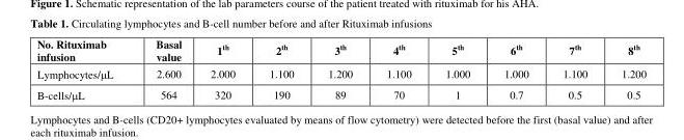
<table><thead><tr><td>No. Rituximab infusion</td><td>Basal value</td><td>1<sup>th</sup></td><td>2<sup>th</sup></td><td>3<sup>th</sup></td><td>4<sup>th</sup></td><td>5<sup>th</sup></td><td>6<sup>th</sup></td><td>7<sup>th</sup></td><td>8<sup>th</sup></td></tr></thead><tbody><tr><td>Lymphocytes/μL</td><td>2.600</td><td>2.000</td><td>1.100</td><td>1.200</td><td>1.100</td><td>1.000</td><td>1.000</td><td>1.100</td><td>1.200</td></tr><tr><td>B-cells/μL</td><td>564</td><td>320</td><td>190</td><td>89</td><td>70</td><td>1</td><td>0.7</td><td>0.5</td><td>0.5</td></tr></tbody></table>